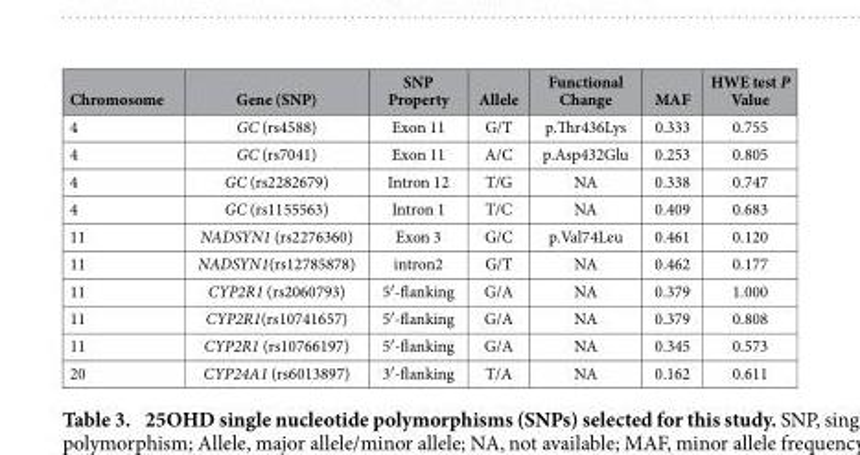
<table><thead><tr><td>Chromosome</td><td>Gene (SNP)</td><td>SNP Property</td><td>Allele</td><td>Functional Change</td><td>MAF</td><td>HWE test P Value</td></tr></thead><tbody><tr><td>4</td><td>GC (rs4588)</td><td>Exon 11</td><td>G/T</td><td>p.Thr436Lys</td><td>0.333</td><td>0.755</td></tr><tr><td>4</td><td>GC (rs7041)</td><td>Exon 11</td><td>A/C</td><td>p.Asp432Glu</td><td>0.253</td><td>0.805</td></tr><tr><td>4</td><td>GC (rs2282679)</td><td>Intron 12</td><td>T/G</td><td>NA</td><td>0.338</td><td>0.747</td></tr><tr><td>4</td><td>GC (rs1155563)</td><td>Intron 1</td><td>T/C</td><td>NA</td><td>0.409</td><td>0.683</td></tr><tr><td>11</td><td>NADSYN1 (rs2276360)</td><td>Exon 3</td><td>G/C</td><td>p.Val74Leu</td><td>0.461</td><td>0.120</td></tr><tr><td>11</td><td>NADSYN1(rs12785878)</td><td>intron2</td><td>G/T</td><td>NA</td><td>0.462</td><td>0.177</td></tr><tr><td>11</td><td>CYP2R1 (rs2060793)</td><td>5′ -flanking</td><td>G/A</td><td>NA</td><td>0.379</td><td>1.000</td></tr><tr><td>11</td><td>CYP2R1(rs10741657)</td><td>5′ -flanking</td><td>G/A</td><td>NA</td><td>0.379</td><td>0.808</td></tr><tr><td>11</td><td>CYP2R1 (rs10766197)</td><td>5′ -flanking</td><td>G/A</td><td>NA</td><td>0.345</td><td>0.573</td></tr><tr><td>20</td><td>CYP24A1 (rs6013897)</td><td>3′ -flanking</td><td>T/A</td><td>NA</td><td>0.162</td><td>0.611</td></tr></tbody></table>